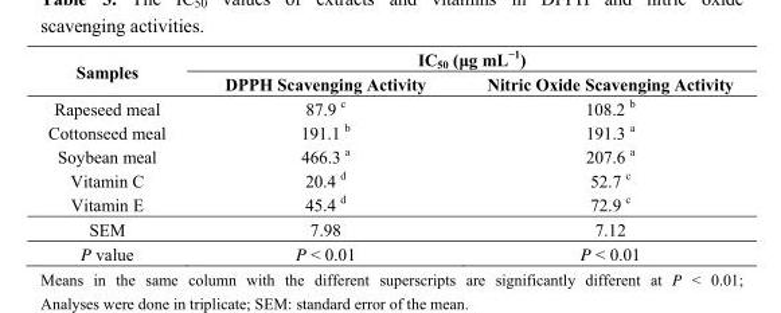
<table><thead><tr><td rowspan="2">Samples</td><td colspan="2">IC<sub>50</sub> (μg mL<sup>−1</sup>)</td></tr><tr><td>DPPH Scavenging Activity</td><td>Nitric Oxide Scavenging Activity</td></tr></thead><tbody><tr><td>Rapeseed meal</td><td>87.9 <sup>c</sup></td><td>108.2 <sup>b</sup></td></tr><tr><td>Cottonseed meal</td><td>191.1 <sup>b</sup></td><td>191.3 <sup>a</sup></td></tr><tr><td>Soybean meal</td><td>466.3 <sup>a</sup></td><td>207.6 <sup>a</sup></td></tr><tr><td>Vitamin C</td><td>20.4 <sup>d</sup></td><td>52.7 <sup>c</sup></td></tr><tr><td>Vitamin E</td><td>45.4 <sup>d</sup></td><td>72.9 <sup>c</sup></td></tr><tr><td>SEM</td><td>7.98</td><td>7.12</td></tr><tr><td>P value</td><td>P &lt; 0.01</td><td>P &lt; 0.01</td></tr></tbody></table>